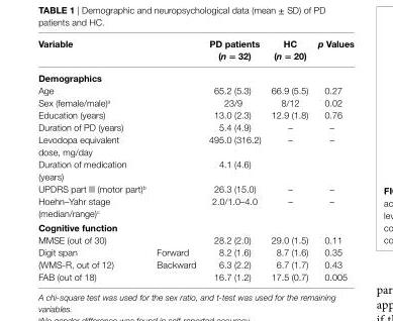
<table><thead><tr><td>Variable</td><td></td><td>pD patients (n = 32)</td><td>hc (n = 20)</td><td>p Values</td></tr></thead><tbody><tr><td colspan="5">Demographics</td></tr><tr><td>Age</td><td></td><td>65.2 (5.3)</td><td>66.9 (5.5)</td><td>0.27</td></tr><tr><td>Sex (female/male)<sup>a</sup></td><td></td><td>23/9</td><td>8/12</td><td>0.02</td></tr><tr><td>Education (years)</td><td></td><td>13.0 (2.3)</td><td>12.9 (1.8)</td><td>0.76</td></tr><tr><td>Duration of PD (years)</td><td></td><td>5.4 (4.9)</td><td>–</td><td>–</td></tr><tr><td>Levodopa equivalent dose, mg/day</td><td></td><td>495.0 (316.2)</td><td>–</td><td>–</td></tr><tr><td>Duration of medication (years)</td><td></td><td>4.1 (4.6)</td><td></td><td></td></tr><tr><td>UPDRS part III (motor part)<sup>b</sup></td><td></td><td>26.3 (15.0)</td><td>–</td><td>–</td></tr><tr><td>Hoehn–Yahr stage (median/range)<sup>c</sup></td><td></td><td>2.0/1.0–4.0</td><td>–</td><td>–</td></tr><tr><td colspan="5">cognitive function</td></tr><tr><td>MMSE (out of 30)</td><td></td><td>28.2 (2.0)</td><td>29.0 (1.5)</td><td>0.11</td></tr><tr><td>Digit span (WMS-R, out of 12)</td><td>Forward Backward</td><td>8.2 (1.6) 6.3 (2.2)</td><td>8.7 (1.6) 6.7 (1.7)</td><td>0.35 0.43</td></tr><tr><td>FAB (out of 18)</td><td></td><td>16.7 (1.2)</td><td>17.5 (0.7)</td><td>0.005</td></tr></tbody></table>